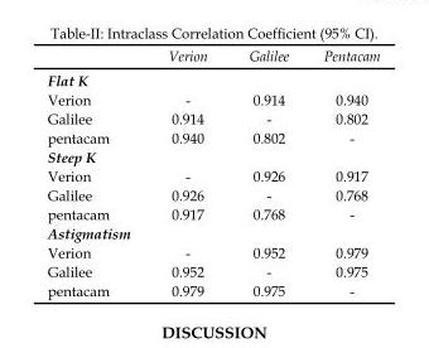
<table><thead><tr><td></td><td>Verion</td><td>Galilee</td><td>Pentacam</td></tr></thead><tbody><tr><td colspan="4">Flat K</td></tr><tr><td>Verion</td><td>-</td><td>0.914</td><td>0.940</td></tr><tr><td>Galilee</td><td>0.914</td><td>-</td><td>0.802</td></tr><tr><td>pentacam</td><td>0.940</td><td>0.802</td><td>-</td></tr><tr><td colspan="4">Steep K</td></tr><tr><td>Verion</td><td>-</td><td>0.926</td><td>0.917</td></tr><tr><td>Galilee</td><td>0.926</td><td>-</td><td>0.768</td></tr><tr><td>pentacam</td><td>0.917</td><td>0.768</td><td>-</td></tr><tr><td colspan="4">Astigmatism</td></tr><tr><td>Verion</td><td>-</td><td>0.952</td><td>0.979</td></tr><tr><td>Galilee</td><td>0.952</td><td>-</td><td>0.975</td></tr><tr><td>pentacam</td><td>0.979</td><td>0.975</td><td>-</td></tr></tbody></table>